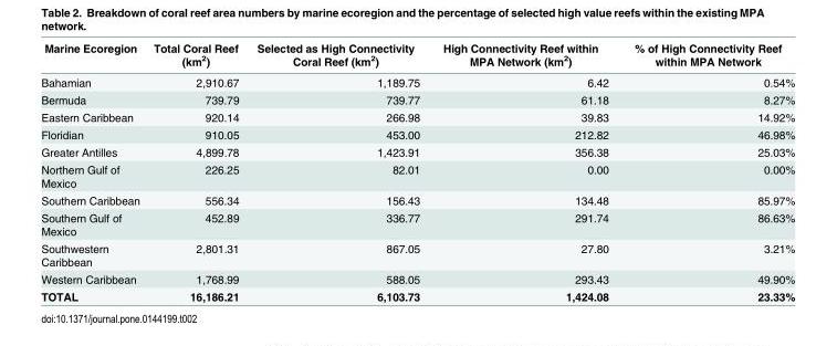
<table><thead><tr><td>Marine Ecoregion</td><td>Total Coral Reef (km<sup>2</sup>)</td><td>Selected as High Connectivity Coral Reef (km<sup>2</sup>)</td><td>High Connectivity Reef within MPA Network (km<sup>2</sup>)</td><td>% of High Connectivity Reef within MPA Network</td></tr></thead><tbody><tr><td>Bahamian</td><td>2,910.67</td><td>1,189.75</td><td>6.42</td><td>0.54%</td></tr><tr><td>Bermuda</td><td>739.79</td><td>739.77</td><td>61.18</td><td>8.27%</td></tr><tr><td>Eastern Caribbean</td><td>920.14</td><td>266.98</td><td>39.83</td><td>14.92%</td></tr><tr><td>Floridian</td><td>910.05</td><td>453.00</td><td>212.82</td><td>46.98%</td></tr><tr><td>Greater Antilles</td><td>4,899.78</td><td>1,423.91</td><td>356.38</td><td>25.03%</td></tr><tr><td>Northern Gulf of Mexico</td><td>226.25</td><td>82.01</td><td>0.00</td><td>0.00%</td></tr><tr><td>Southern Caribbean</td><td>556.34</td><td>156.43</td><td>134.48</td><td>85.97%</td></tr><tr><td>Southern Gulf of Mexico</td><td>452.89</td><td>336.77</td><td>291.74</td><td>86.63%</td></tr><tr><td>Southwestern Caribbean</td><td>2,801.31</td><td>867.05</td><td>27.80</td><td>3.21%</td></tr><tr><td>Western Caribbean</td><td>1,768.99</td><td>588.05</td><td>293.43</td><td>49.90%</td></tr><tr><td>TOTAL</td><td>16,186.21</td><td>6,103.73</td><td>1,424.08</td><td>23.33%</td></tr></tbody></table>